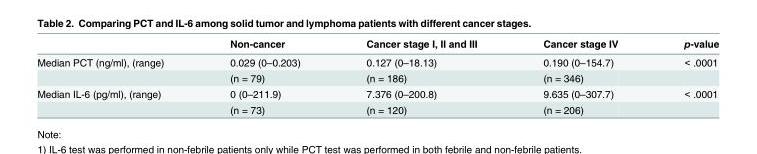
<table><thead><tr><td></td><td>Non-cancer</td><td>Cancer stage I, II and III</td><td>Cancer stage IV</td><td>p-value</td></tr></thead><tbody><tr><td rowspan="2">Median PCT (ng/ml), (range)</td><td>0.029 (0–0.203)</td><td>0.127 (0–18.13)</td><td>0.190 (0–154.7)</td><td>&lt; .0001</td></tr><tr><td>(n = 79)</td><td>(n = 186)</td><td>(n = 346)</td><td></td></tr><tr><td rowspan="2">Median IL-6 (pg/ml), (range)</td><td>0 (0–211.9)</td><td>7.376 (0–200.8)</td><td>9.635 (0–307.7)</td><td>&lt; .0001</td></tr><tr><td>(n = 73)</td><td>(n = 120)</td><td>(n = 206)</td><td></td></tr></tbody></table>